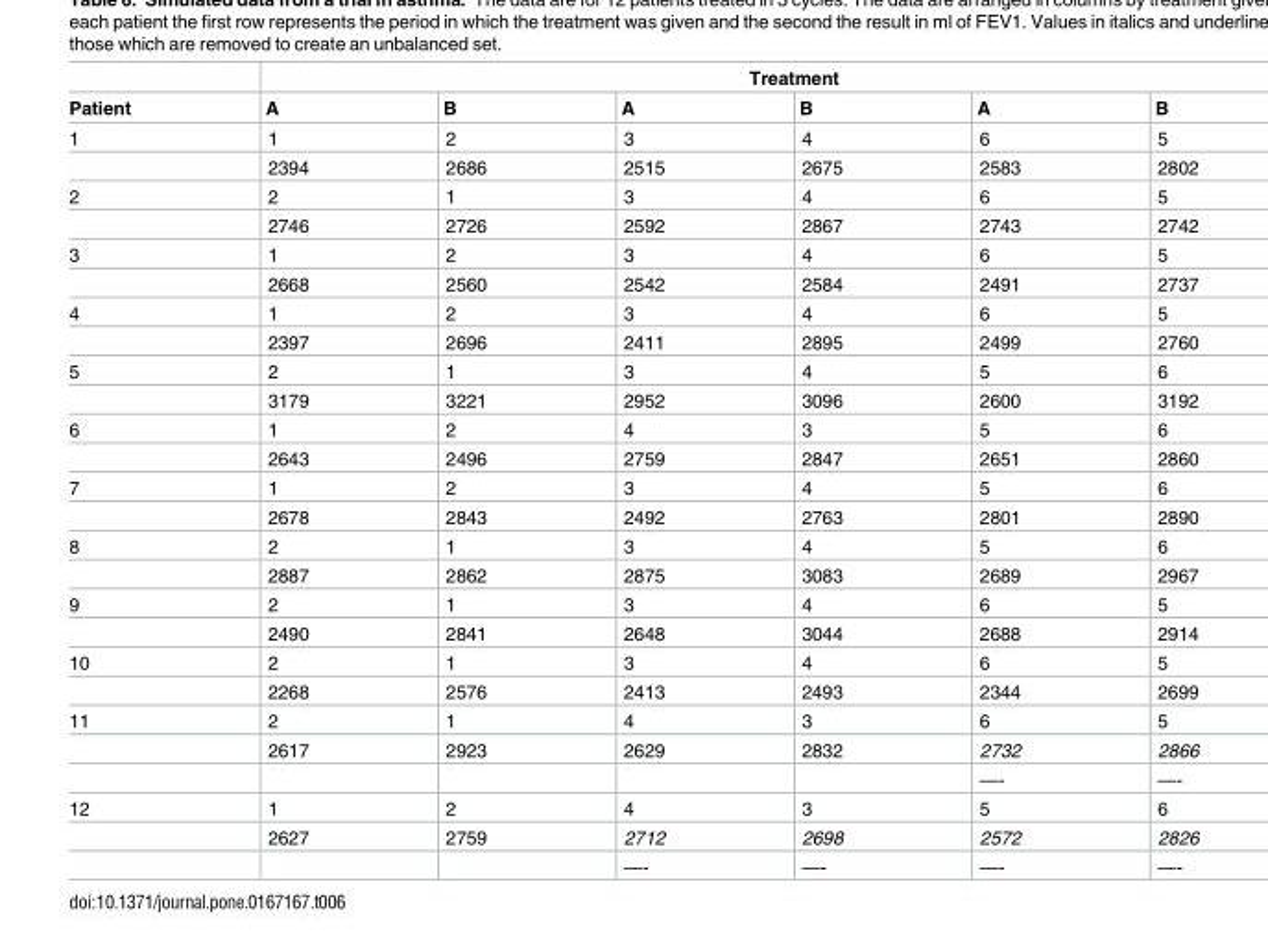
<table><thead><tr><td rowspan="2">Patient</td><td colspan="6">Treatment</td></tr><tr><td>A</td><td>B</td><td>A</td><td>B</td><td>A</td><td>B</td></tr></thead><tbody><tr><td rowspan="2">1</td><td>1</td><td>2</td><td>3</td><td>4</td><td>6</td><td>5</td></tr><tr><td>2394</td><td>2686</td><td>2515</td><td>2675</td><td>2583</td><td>2802</td></tr><tr><td rowspan="2">2</td><td>2</td><td>1</td><td>3</td><td>4</td><td>6</td><td>5</td></tr><tr><td>2746</td><td>2726</td><td>2592</td><td>2867</td><td>2743</td><td>2742</td></tr><tr><td rowspan="2">3</td><td>1</td><td>2</td><td>3</td><td>4</td><td>6</td><td>5</td></tr><tr><td>2668</td><td>2560</td><td>2542</td><td>2584</td><td>2491</td><td>2737</td></tr><tr><td rowspan="2">4</td><td>1</td><td>2</td><td>3</td><td>4</td><td>6</td><td>5</td></tr><tr><td>2397</td><td>2696</td><td>2411</td><td>2895</td><td>2499</td><td>2760</td></tr><tr><td rowspan="2">5</td><td>2</td><td>1</td><td>3</td><td>4</td><td>5</td><td>6</td></tr><tr><td>3179</td><td>3221</td><td>2952</td><td>3096</td><td>2600</td><td>3192</td></tr><tr><td rowspan="2">6</td><td>1</td><td>2</td><td>4</td><td>3</td><td>5</td><td>6</td></tr><tr><td>2643</td><td>2496</td><td>2759</td><td>2847</td><td>2651</td><td>2860</td></tr><tr><td rowspan="2">7</td><td>1</td><td>2</td><td>3</td><td>4</td><td>5</td><td>6</td></tr><tr><td>2678</td><td>2843</td><td>2492</td><td>2763</td><td>2801</td><td>2890</td></tr><tr><td rowspan="2">8</td><td>2</td><td>1</td><td>3</td><td>4</td><td>5</td><td>6</td></tr><tr><td>2887</td><td>2862</td><td>2875</td><td>3083</td><td>2689</td><td>2967</td></tr><tr><td rowspan="2">9</td><td>2</td><td>1</td><td>3</td><td>4</td><td>6</td><td>5</td></tr><tr><td>2490</td><td>2841</td><td>2648</td><td>3044</td><td>2688</td><td>2914</td></tr><tr><td rowspan="2">10</td><td>2</td><td>1</td><td>3</td><td>4</td><td>6</td><td>5</td></tr><tr><td>2268</td><td>2576</td><td>2413</td><td>2493</td><td>2344</td><td>2699</td></tr><tr><td rowspan="3">11</td><td>2</td><td>1</td><td>4</td><td>3</td><td>6</td><td>5</td></tr><tr><td>2617</td><td>2923</td><td>2629</td><td>2832</td><td>2732</td><td>2866</td></tr><tr><td></td><td></td><td></td><td></td><td>—-</td><td>—-</td></tr><tr><td rowspan="3">12</td><td>1</td><td>2</td><td>4</td><td>3</td><td>5</td><td>6</td></tr><tr><td>2627</td><td>2759</td><td>2712</td><td>2698</td><td>2572</td><td>2826</td></tr><tr><td></td><td></td><td>—-</td><td>—-</td><td>—-</td><td>—-</td></tr></tbody></table>